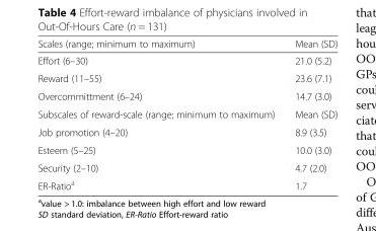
<table><thead><tr><td>Scales (range; minimum to maximum)</td><td>Mean (SD)</td></tr></thead><tbody><tr><td>Effort (6–30)</td><td>21.0 (5.2)</td></tr><tr><td>Reward (11–55)</td><td>23.6 (7.1)</td></tr><tr><td>Overcommittment (6–24)</td><td>14.7 (3.0)</td></tr><tr><td>Subscales of reward-scale (range; minimum to maximum)</td><td>Mean (SD)</td></tr><tr><td>Job promotion (4–20)</td><td>8.9 (3.5)</td></tr><tr><td>Esteem (5–25)</td><td>10.0 (3.0)</td></tr><tr><td>Security (2–10)</td><td>4.7 (2.0)</td></tr><tr><td>ER-Ratio<sup>a</sup></td><td>1.7</td></tr></tbody></table>